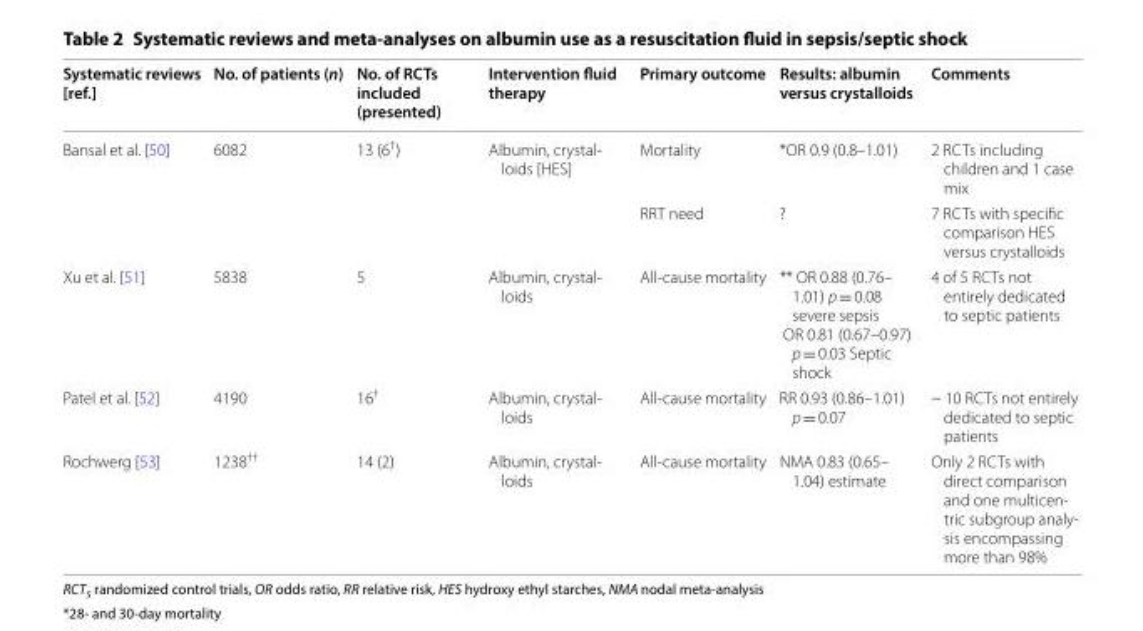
<table><thead><tr><td>Systematic reviews [ref.]</td><td>No. of patients (n)</td><td>No. of RCTs included (presented)</td><td>Intervention fluid therapy</td><td>Primary outcome</td><td>Results: albumin versus crystalloids</td><td>Comments</td></tr></thead><tbody><tr><td rowspan="2">Bansal et al. [50]</td><td>6082</td><td>13 (6<sup>†</sup>)</td><td>Albumin, crystal- loids [HES]</td><td>Mortality</td><td>*OR 0.9 (0.8–1.01)</td><td>2 RCTs including children and 1 case mix</td></tr><tr><td></td><td></td><td></td><td>RRT need</td><td>?</td><td>7 RCTs with specific comparison HES versus crystalloids</td></tr><tr><td>Xu et al. [51]</td><td>5838</td><td>5</td><td>Albumin, crystal- loids</td><td>All-cause mortality</td><td>** OR 0.88 (0.76– 1.01) p = 0.08 severe sepsis OR 0.81 (0.67–0.97) p = 0.03 Septic shock</td><td>4 of 5 RCTs not entirely dedicated to septic patients</td></tr><tr><td>Patel et al. [52]</td><td>4190</td><td>16<sup>†</sup></td><td>Albumin, crystal- loids</td><td>All-cause mortality</td><td>RR 0.93 (0.86–1.01) p = 0.07</td><td>~ 10 RCTs not entirely dedicated to septic patients</td></tr><tr><td>Rochwerg [53]</td><td>1238<sup>††</sup></td><td>14 (2)</td><td>Albumin, crystal- loids</td><td>All-cause mortality</td><td>NMA 0.83 (0.65– 1.04) estimate</td><td>Only 2 RCTs with direct comparison and one multicen- tric subgroup analy- sis encompassing more than 98%</td></tr></tbody></table>